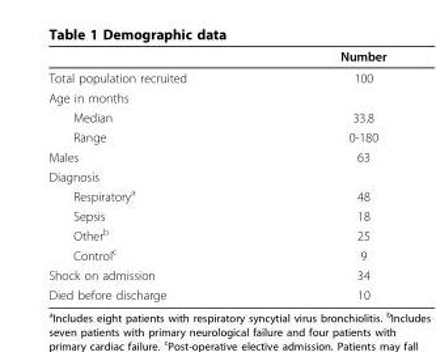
<table><thead><tr><td></td><td>Number</td></tr></thead><tbody><tr><td>Total population recruited</td><td>100</td></tr><tr><td colspan="2">Age in months</td></tr><tr><td>Median</td><td>33.8</td></tr><tr><td>Range</td><td>0-180</td></tr><tr><td>Males</td><td>63</td></tr><tr><td colspan="2">Diagnosis</td></tr><tr><td>Respiratory<sup>a</sup></td><td>48</td></tr><tr><td>Sepsis</td><td>18</td></tr><tr><td>Other<sup>b</sup></td><td>25</td></tr><tr><td>Control<sup>c</sup></td><td>9</td></tr><tr><td>Shock on admission</td><td>34</td></tr><tr><td>Died before discharge</td><td>10</td></tr></tbody></table>